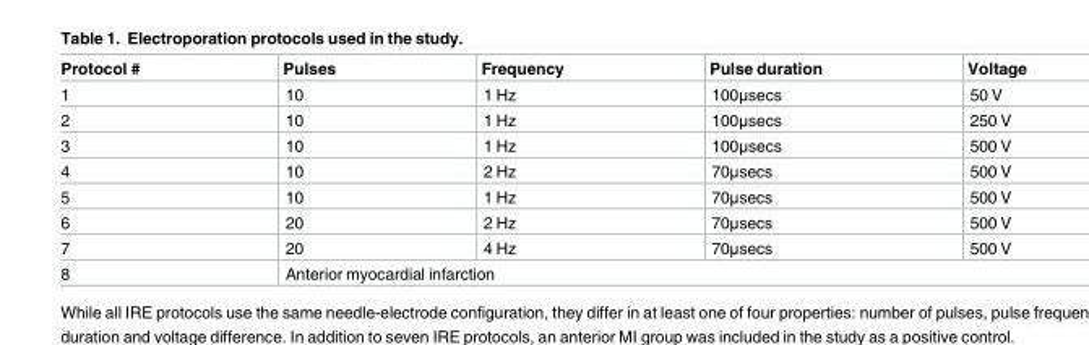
<table><thead><tr><td>Protocol #</td><td>Pulses</td><td>Frequency</td><td>Pulse duration</td><td>Voltage</td></tr></thead><tbody><tr><td>1</td><td>10</td><td>1 Hz</td><td>100μsecs</td><td>50 V</td></tr><tr><td>2</td><td>10</td><td>1 Hz</td><td>100μsecs</td><td>250 V</td></tr><tr><td>3</td><td>10</td><td>1 Hz</td><td>100μsecs</td><td>500 V</td></tr><tr><td>4</td><td>10</td><td>2 Hz</td><td>70μsecs</td><td>500 V</td></tr><tr><td>5</td><td>10</td><td>1 Hz</td><td>70μsecs</td><td>500 V</td></tr><tr><td>6</td><td>20</td><td>2 Hz</td><td>70μsecs</td><td>500 V</td></tr><tr><td>7</td><td>20</td><td>4 Hz</td><td>70μsecs</td><td>500 V</td></tr><tr><td>8</td><td colspan="4">Anterior myocardial infarction</td></tr></tbody></table>